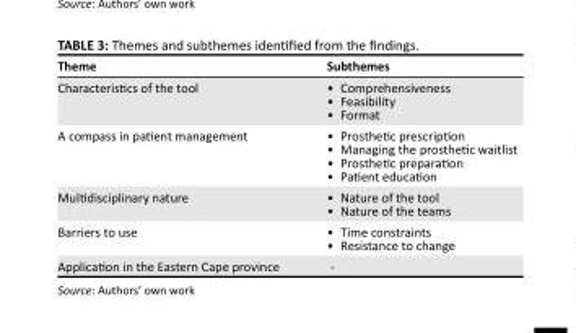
<table><thead><tr><td>Theme</td><td>Subthemes</td></tr></thead><tbody><tr><td>Characteristics of the tool</td><td>• Comprehensiveness • Feasibility • Format</td></tr><tr><td>A compass in patient management</td><td>• Prosthetic prescription • Managing the prosthetic waitlist • Prosthetic preparation • Patient education</td></tr><tr><td>Multidisciplinary nature</td><td>• Nature of the tool • Nature of the teams</td></tr><tr><td>Barriers to use</td><td>• Time constraints • Resistance to change</td></tr><tr><td>Application in the Eastern Cape province</td><td>-</td></tr></tbody></table>